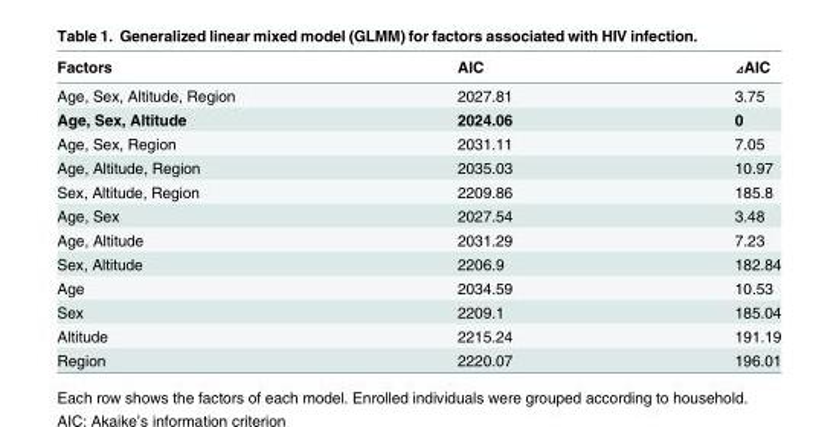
<table><thead><tr><td>Factors</td><td>AIC</td><td>⊿AIC</td></tr></thead><tbody><tr><td>Age, Sex, Altitude, Region</td><td>2027.81</td><td>3.75</td></tr><tr><td>Age, Sex, Altitude</td><td>2024.06</td><td>0</td></tr><tr><td>Age, Sex, Region</td><td>2031.11</td><td>7.05</td></tr><tr><td>Age, Altitude, Region</td><td>2035.03</td><td>10.97</td></tr><tr><td>Sex, Altitude, Region</td><td>2209.86</td><td>185.8</td></tr><tr><td>Age, Sex</td><td>2027.54</td><td>3.48</td></tr><tr><td>Age, Altitude</td><td>2031.29</td><td>7.23</td></tr><tr><td>Sex, Altitude</td><td>2206.9</td><td>182.84</td></tr><tr><td>Age</td><td>2034.59</td><td>10.53</td></tr><tr><td>Sex</td><td>2209.1</td><td>185.04</td></tr><tr><td>Altitude</td><td>2215.24</td><td>191.19</td></tr><tr><td>Region</td><td>2220.07</td><td>196.01</td></tr></tbody></table>